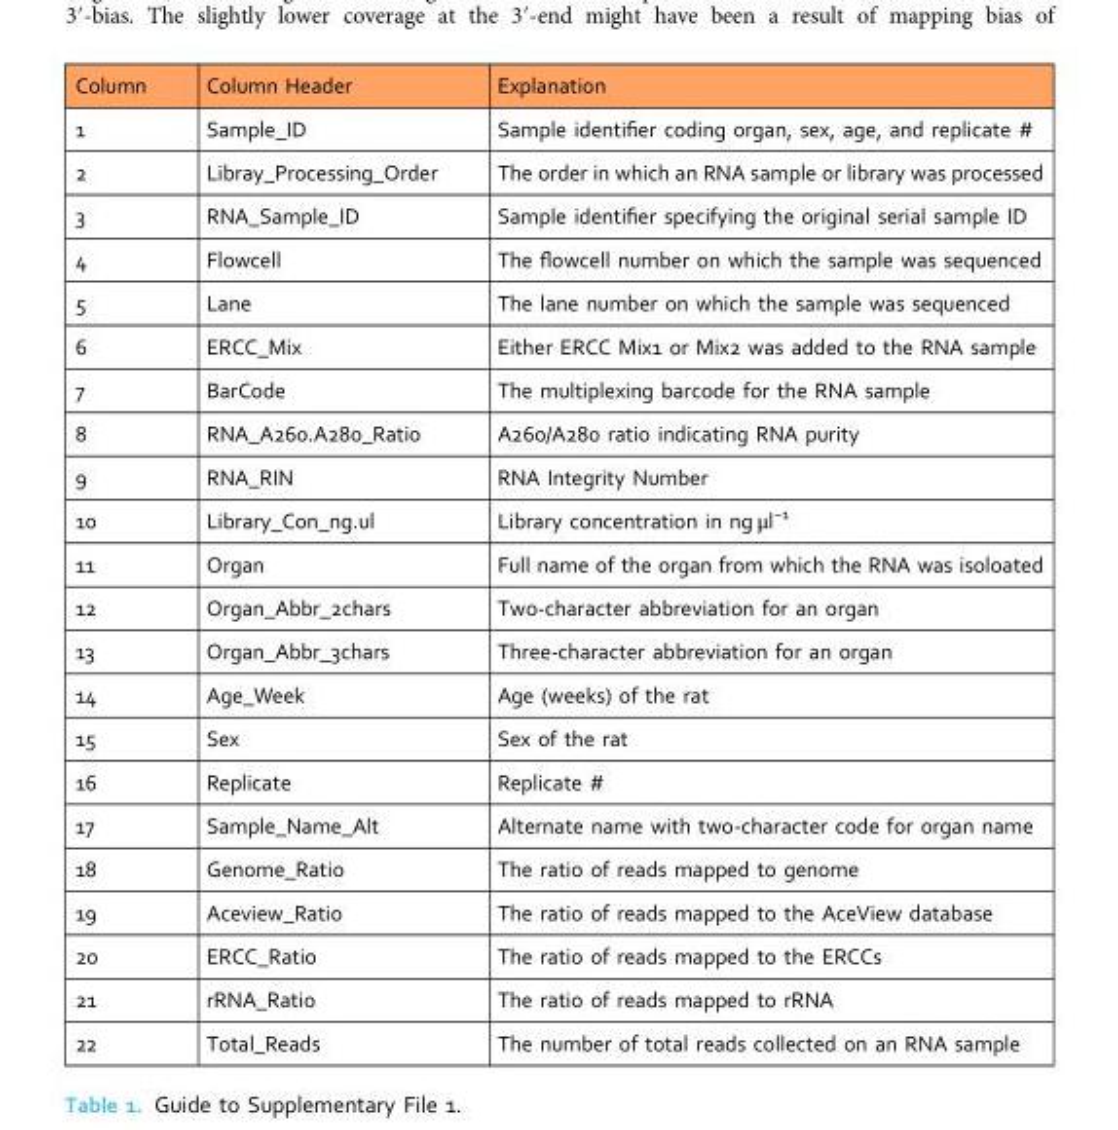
<table><thead><tr><td>Column</td><td>Column Header</td><td>Explanation</td></tr></thead><tbody><tr><td>1</td><td>Sample_ID</td><td>Sample identifier coding organ, sex, age, and replicate #</td></tr><tr><td>2</td><td>Libray_Processing_Order</td><td>The order in which an RNA sample or library was processed</td></tr><tr><td>3</td><td>RNA_Sample_ID</td><td>Sample identifier specifying the original serial sample ID</td></tr><tr><td>4</td><td>Flowcell</td><td>The flowcell number on which the sample was sequenced</td></tr><tr><td>5</td><td>Lane</td><td>The lane number on which the sample was sequenced</td></tr><tr><td>6</td><td>ERCC_Mix</td><td>Either ERCC Mix1 or Mix2 was added to the RNA sample</td></tr><tr><td>7</td><td>BarCode</td><td>The multiplexing barcode for the RNA sample</td></tr><tr><td>8</td><td>RNA_A260.A280_Ratio</td><td>A260/A280 ratio indicating RNA purity</td></tr><tr><td>9</td><td>RNA_RIN</td><td>RNA Integrity Number</td></tr><tr><td>10</td><td>Library_Con_ng.ul</td><td>Library concentration in ng μl<sup>−1</sup></td></tr><tr><td>11</td><td>Organ</td><td>Full name of the organ from which the RNA was isoloated</td></tr><tr><td>12</td><td>Organ_Abbr_2chars</td><td>Two-character abbreviation for an organ</td></tr><tr><td>13</td><td>Organ_Abbr_3chars</td><td>Three-character abbreviation for an organ</td></tr><tr><td>14</td><td>Age_Week</td><td>Age (weeks) of the rat</td></tr><tr><td>15</td><td>Sex</td><td>Sex of the rat</td></tr><tr><td>16</td><td>Replicate</td><td>Replicate #</td></tr><tr><td>17</td><td>Sample_Name_Alt</td><td>Alternate name with two-character code for organ name</td></tr><tr><td>18</td><td>Genome_Ratio</td><td>The ratio of reads mapped to genome</td></tr><tr><td>19</td><td>Aceview_Ratio</td><td>The ratio of reads mapped to the AceView database</td></tr><tr><td>20</td><td>ERCC_Ratio</td><td>The ratio of reads mapped to the ERCCs</td></tr><tr><td>21</td><td>rRNA_Ratio</td><td>The ratio of reads mapped to rRNA</td></tr><tr><td>22</td><td>Total_Reads</td><td>The number of total reads collected on an RNA sample</td></tr></tbody></table>